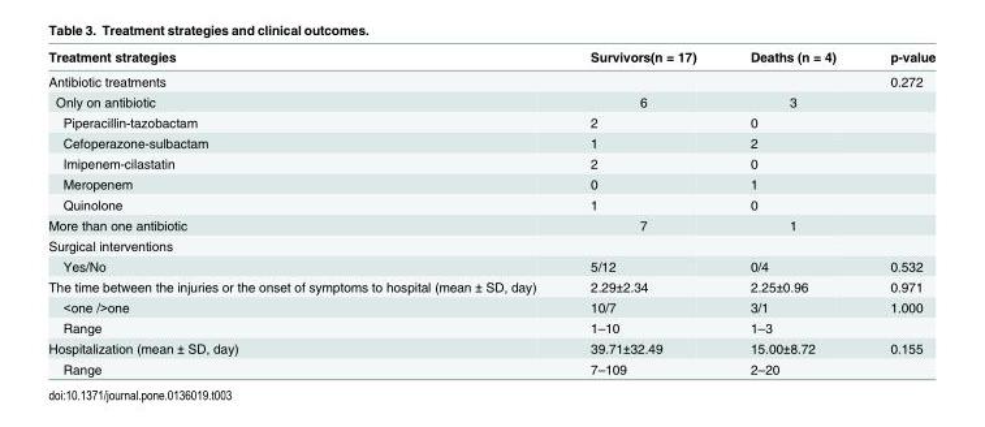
<table><thead><tr><td>Treatment strategies</td><td>Survivors(n = 17)</td><td>Deaths (n = 4)</td><td>p-value</td></tr></thead><tbody><tr><td>Antibiotic treatments</td><td></td><td></td><td>0.272</td></tr><tr><td>Only on antibiotic</td><td>6</td><td>3</td><td></td></tr><tr><td>Piperacillin-tazobactam</td><td>2</td><td>0</td><td></td></tr><tr><td>Cefoperazone-sulbactam</td><td>1</td><td>2</td><td></td></tr><tr><td>Imipenem-cilastatin</td><td>2</td><td>0</td><td></td></tr><tr><td>Meropenem</td><td>0</td><td>1</td><td></td></tr><tr><td>Quinolone</td><td>1</td><td>0</td><td></td></tr><tr><td>More than one antibiotic</td><td>7</td><td>1</td><td></td></tr><tr><td colspan="4">Surgical interventions</td></tr><tr><td>Yes/No</td><td>5/12</td><td>0/4</td><td>0.532</td></tr><tr><td>The time between the injuries or the onset of symptoms to hospital (mean ± SD, day)</td><td>2.29±2.34</td><td>2.25±0.96</td><td>0.971</td></tr><tr><td>&lt;one /&gt;one</td><td>10/7</td><td>3/1</td><td>1.000</td></tr><tr><td>Range</td><td>1–10</td><td>1–3</td><td></td></tr><tr><td>Hospitalization (mean ± SD, day)</td><td>39.71±32.49</td><td>15.00±8.72</td><td>0.155</td></tr><tr><td>Range</td><td>7–109</td><td>2–20</td><td></td></tr></tbody></table>